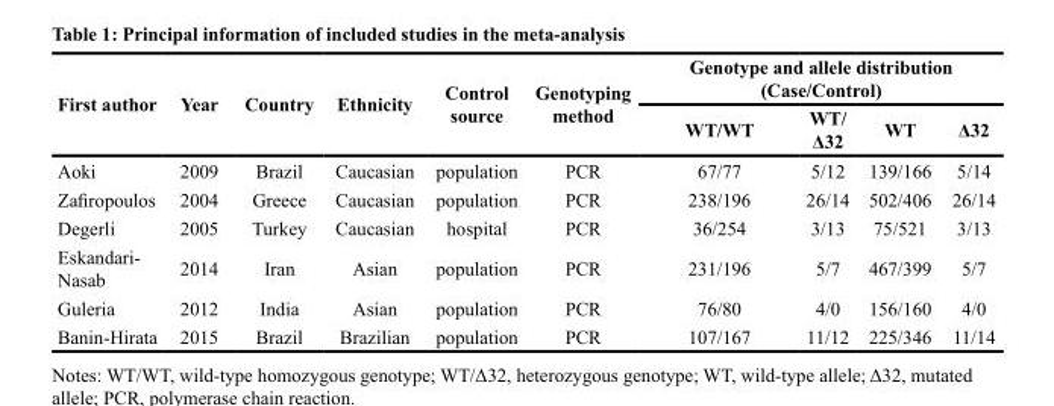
<table><thead><tr><td rowspan="2">First author</td><td rowspan="2">Year</td><td rowspan="2">Country</td><td rowspan="2">Ethnicity</td><td rowspan="2">Control source</td><td rowspan="2">Genotyping method</td><td colspan="4">Genotype and allele distribution (Case/Control)</td></tr><tr><td>WT/WT</td><td>WT/ Δ32</td><td>WT</td><td>Δ32</td></tr></thead><tbody><tr><td>Aoki</td><td>2009</td><td>Brazil</td><td>Caucasian</td><td>population</td><td>PCR</td><td>67/77</td><td>5/12</td><td>139/166</td><td>5/14</td></tr><tr><td>Zafiropoulos</td><td>2004</td><td>Greece</td><td>Caucasian</td><td>population</td><td>PCR</td><td>238/196</td><td>26/14</td><td>502/406</td><td>26/14</td></tr><tr><td>Degerli</td><td>2005</td><td>Turkey</td><td>Caucasian</td><td>hospital</td><td>PCR</td><td>36/254</td><td>3/13</td><td>75/521</td><td>3/13</td></tr><tr><td>Eskandari- Nasab</td><td>2014</td><td>Iran</td><td>Asian</td><td>population</td><td>PCR</td><td>231/196</td><td>5/7</td><td>467/399</td><td>5/7</td></tr><tr><td>Guleria</td><td>2012</td><td>India</td><td>Asian</td><td>population</td><td>PCR</td><td>76/80</td><td>4/0</td><td>156/160</td><td>4/0</td></tr><tr><td>Banin-Hirata</td><td>2015</td><td>Brazil</td><td>Brazilian</td><td>population</td><td>PCR</td><td>107/167</td><td>11/12</td><td>225/346</td><td>11/14</td></tr></tbody></table>